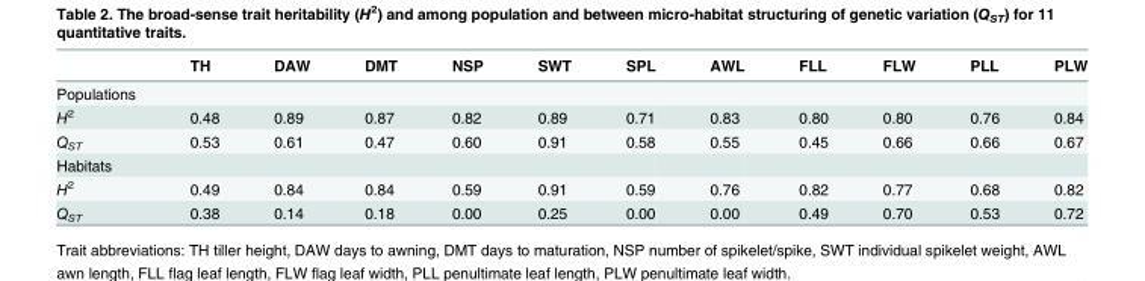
<table><thead><tr><td></td><td>TH</td><td>DAW</td><td>DMT</td><td>NSP</td><td>SWT</td><td>SPL</td><td>AWL</td><td>FLL</td><td>FLW</td><td>PLL</td><td>PLW</td></tr></thead><tbody><tr><td colspan="12">Populations</td></tr><tr><td>H<sup>2</sup></td><td>0.48</td><td>0.89</td><td>0.87</td><td>0.82</td><td>0.89</td><td>0.71</td><td>0.83</td><td>0.80</td><td>0.80</td><td>0.76</td><td>0.84</td></tr><tr><td>Q<sub>ST</sub></td><td>0.53</td><td>0.61</td><td>0.47</td><td>0.60</td><td>0.91</td><td>0.58</td><td>0.55</td><td>0.45</td><td>0.66</td><td>0.66</td><td>0.67</td></tr><tr><td colspan="12">Habitats</td></tr><tr><td>H<sup>2</sup></td><td>0.49</td><td>0.84</td><td>0.84</td><td>0.59</td><td>0.91</td><td>0.59</td><td>0.76</td><td>0.82</td><td>0.77</td><td>0.68</td><td>0.82</td></tr><tr><td>Q<sub>ST</sub></td><td>0.38</td><td>0.14</td><td>0.18</td><td>0.00</td><td>0.25</td><td>0.00</td><td>0.00</td><td>0.49</td><td>0.70</td><td>0.53</td><td>0.72</td></tr></tbody></table>